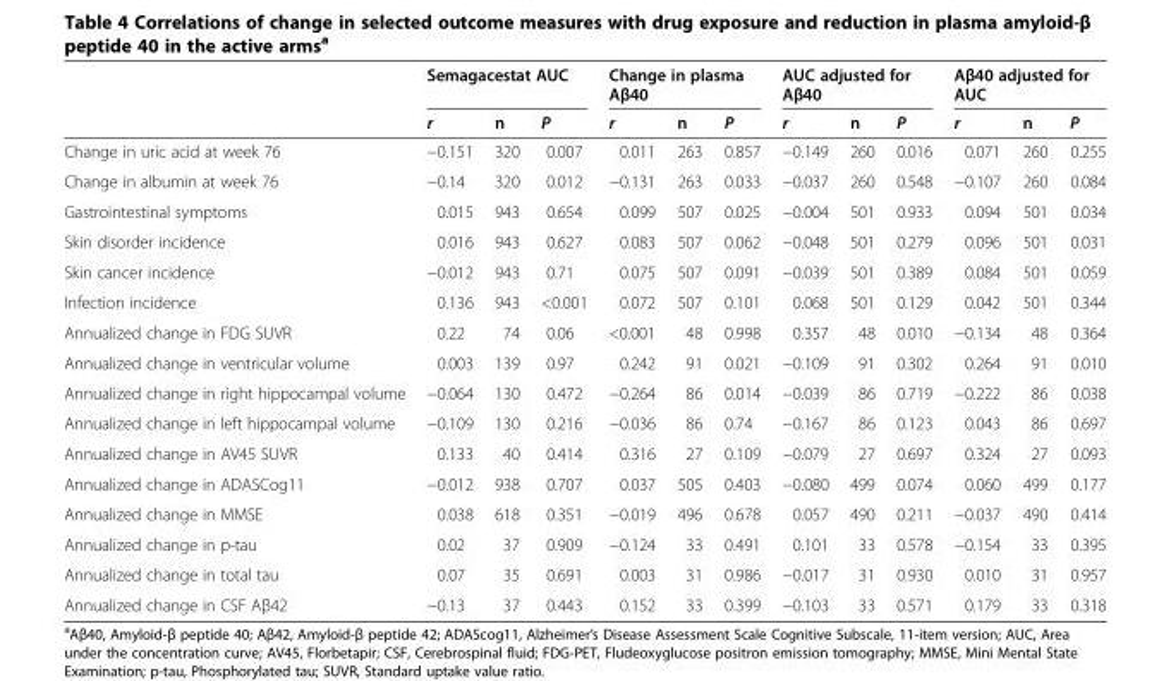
<table><thead><tr><td rowspan="2"></td><td colspan="3">Semagacestat AUC</td><td colspan="3">Change in plasma Aβ40</td><td colspan="3">AUC adjusted for Aβ40</td><td colspan="3">Aβ40 adjusted for AUC</td></tr><tr><td>r</td><td>n</td><td>P</td><td>r</td><td>n</td><td>P</td><td>r</td><td>n</td><td>P</td><td>r</td><td>n</td><td>P</td></tr></thead><tbody><tr><td>Change in uric acid at week 76</td><td>−0.151</td><td>320</td><td>0.007</td><td>0.011</td><td>263</td><td>0.857</td><td>−0.149</td><td>260</td><td>0.016</td><td>0.071</td><td>260</td><td>0.255</td></tr><tr><td>Change in albumin at week 76</td><td>−0.14</td><td>320</td><td>0.012</td><td>−0.131</td><td>263</td><td>0.033</td><td>−0.037</td><td>260</td><td>0.548</td><td>−0.107</td><td>260</td><td>0.084</td></tr><tr><td>Gastrointestinal symptoms</td><td>0.015</td><td>943</td><td>0.654</td><td>0.099</td><td>507</td><td>0.025</td><td>−0.004</td><td>501</td><td>0.933</td><td>0.094</td><td>501</td><td>0.034</td></tr><tr><td>Skin disorder incidence</td><td>0.016</td><td>943</td><td>0.627</td><td>0.083</td><td>507</td><td>0.062</td><td>−0.048</td><td>501</td><td>0.279</td><td>0.096</td><td>501</td><td>0.031</td></tr><tr><td>Skin cancer incidence</td><td>−0.012</td><td>943</td><td>0.71</td><td>0.075</td><td>507</td><td>0.091</td><td>−0.039</td><td>501</td><td>0.389</td><td>0.084</td><td>501</td><td>0.059</td></tr><tr><td>Infection incidence</td><td>0.136</td><td>943</td><td>&lt;0.001</td><td>0.072</td><td>507</td><td>0.101</td><td>0.068</td><td>501</td><td>0.129</td><td>0.042</td><td>501</td><td>0.344</td></tr><tr><td>Annualized change in FDG SUVR</td><td>0.22</td><td>74</td><td>0.06</td><td>&lt;0.001</td><td>48</td><td>0.998</td><td>0.357</td><td>48</td><td>0.010</td><td>−0.134</td><td>48</td><td>0.364</td></tr><tr><td>Annualized change in ventricular volume</td><td>0.003</td><td>139</td><td>0.97</td><td>0.242</td><td>91</td><td>0.021</td><td>−0.109</td><td>91</td><td>0.302</td><td>0.264</td><td>91</td><td>0.010</td></tr><tr><td>Annualized change in right hippocampal volume</td><td>−0.064</td><td>130</td><td>0.472</td><td>−0.264</td><td>86</td><td>0.014</td><td>−0.039</td><td>86</td><td>0.719</td><td>−0.222</td><td>86</td><td>0.038</td></tr><tr><td>Annualized change in left hippocampal volume</td><td>−0.109</td><td>130</td><td>0.216</td><td>−0.036</td><td>86</td><td>0.74</td><td>−0.167</td><td>86</td><td>0.123</td><td>0.043</td><td>86</td><td>0.697</td></tr><tr><td>Annualized change in AV45 SUVR</td><td>0.133</td><td>40</td><td>0.414</td><td>0.316</td><td>27</td><td>0.109</td><td>−0.079</td><td>27</td><td>0.697</td><td>0.324</td><td>27</td><td>0.093</td></tr><tr><td>Annualized change in ADASCog11</td><td>−0.012</td><td>938</td><td>0.707</td><td>0.037</td><td>505</td><td>0.403</td><td>−0.080</td><td>499</td><td>0.074</td><td>0.060</td><td>499</td><td>0.177</td></tr><tr><td>Annualized change in MMSE</td><td>0.038</td><td>618</td><td>0.351</td><td>−0.019</td><td>496</td><td>0.678</td><td>0.057</td><td>490</td><td>0.211</td><td>−0.037</td><td>490</td><td>0.414</td></tr><tr><td>Annualized change in p-tau</td><td>0.02</td><td>37</td><td>0.909</td><td>−0.124</td><td>33</td><td>0.491</td><td>0.101</td><td>33</td><td>0.578</td><td>−0.154</td><td>33</td><td>0.395</td></tr><tr><td>Annualized change in total tau</td><td>0.07</td><td>35</td><td>0.691</td><td>0.003</td><td>31</td><td>0.986</td><td>−0.017</td><td>31</td><td>0.930</td><td>0.010</td><td>31</td><td>0.957</td></tr><tr><td>Annualized change in CSF Aβ42</td><td>−0.13</td><td>37</td><td>0.443</td><td>0.152</td><td>33</td><td>0.399</td><td>−0.103</td><td>33</td><td>0.571</td><td>0.179</td><td>33</td><td>0.318</td></tr></tbody></table>